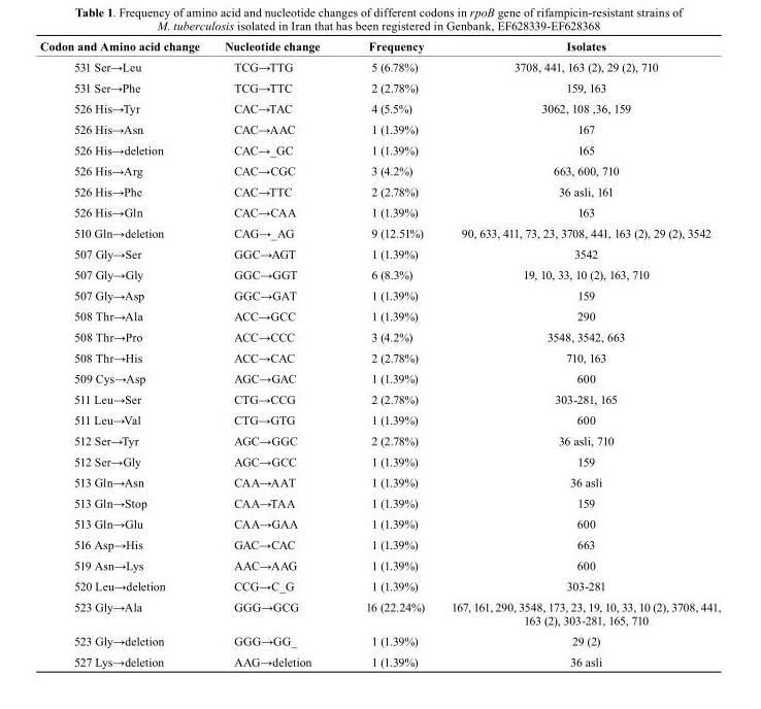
<table><thead><tr><td>Codon and Amino acid change</td><td>Nucleotide change</td><td>Frequency</td><td>Isolates</td></tr></thead><tbody><tr><td>531 Ser→Leu</td><td>TCG→TTG</td><td>5 (6.78%)</td><td>3708, 441, 163 (2), 29 (2), 710</td></tr><tr><td>531 Ser→Phe</td><td>TCG→TTC</td><td>2 (2.78%)</td><td>159, 163</td></tr><tr><td>526 His→Tyr</td><td>CAC→TAC</td><td>4 (5.5%)</td><td>3062, 108 ,36, 159</td></tr><tr><td>526 His→Asn</td><td>CAC→AAC</td><td>1 (1.39%)</td><td>167</td></tr><tr><td>526 His→deletion</td><td>CAC→_GC</td><td>1 (1.39%)</td><td>165</td></tr><tr><td>526 His→Arg</td><td>CAC→CGC</td><td>3 (4.2%)</td><td>663, 600, 710</td></tr><tr><td>526 His→Phe</td><td>CAC→TTC</td><td>2 (2.78%)</td><td>36 asli, 161</td></tr><tr><td>526 His→Gln</td><td>CAC→CAA</td><td>1 (1.39%)</td><td>163</td></tr><tr><td>510 Gln→deletion</td><td>CAG→_AG</td><td>9 (12.51%)</td><td>90, 633, 411, 73, 23, 3708, 441, 163 (2), 29 (2), 3542</td></tr><tr><td>507 Gly→Ser</td><td>GGC→AGT</td><td>1 (1.39%)</td><td>3542</td></tr><tr><td>507 Gly→Gly</td><td>GGC→GGT</td><td>6 (8.3%)</td><td>19, 10, 33, 10 (2), 163, 710</td></tr><tr><td>507 Gly→Asp</td><td>GGC→GAT</td><td>1 (1.39%)</td><td>159</td></tr><tr><td>508 Thr→Ala</td><td>ACC→GCC</td><td>1 (1.39%)</td><td>290</td></tr><tr><td>508 Thr→Pro</td><td>ACC→CCC</td><td>3 (4.2%)</td><td>3548, 3542, 663</td></tr><tr><td>508 Thr→His</td><td>ACC→CAC</td><td>2 (2.78%)</td><td>710, 163</td></tr><tr><td>509 Cys→Asp</td><td>AGC→GAC</td><td>1 (1.39%)</td><td>600</td></tr><tr><td>511 Leu→Ser</td><td>CTG→CCG</td><td>2 (2.78%)</td><td>303-281, 165</td></tr><tr><td>511 Leu→Val</td><td>CTG→GTG</td><td>1 (1.39%)</td><td>600</td></tr><tr><td>512 Ser→Tyr</td><td>AGC→GGC</td><td>2 (2.78%)</td><td>36 asli, 710</td></tr><tr><td>512 Ser→Gly</td><td>AGC→GCC</td><td>1 (1.39%)</td><td>159</td></tr><tr><td>513 Gln→Asn</td><td>CAA→AAT</td><td>1 (1.39%)</td><td>36 asli</td></tr><tr><td>513 Gln→Stop</td><td>CAA→TAA</td><td>1 (1.39%)</td><td>159</td></tr><tr><td>513 Gln→Glu</td><td>CAA→GAA</td><td>1 (1.39%)</td><td>600</td></tr><tr><td>516 Asp→His</td><td>GAC→CAC</td><td>1 (1.39%)</td><td>663</td></tr><tr><td>519 Asn→Lys</td><td>AAC→AAG</td><td>1 (1.39%)</td><td>600</td></tr><tr><td>520 Leu→deletion</td><td>CCG→C_G</td><td>1 (1.39%)</td><td>303-281</td></tr><tr><td>523 Gly→Ala</td><td>GGG→GCG</td><td>16 (22.24%)</td><td>167, 161, 290, 3548, 173, 23, 19, 10, 33, 10 (2), 3708, 441, 163 (2), 303-281, 165, 710</td></tr><tr><td>523 Gly→deletion</td><td>GGG→GG_</td><td>1 (1.39%)</td><td>29 (2)</td></tr><tr><td>527 Lys→deletion</td><td>AAG→deletion</td><td>1 (1.39%)</td><td>36 asli</td></tr></tbody></table>